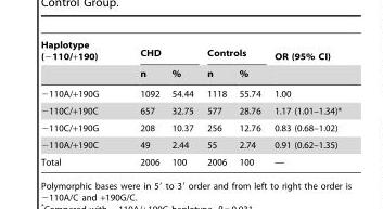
<table><thead><tr><td rowspan="2">Haplotype (−110/+190)</td><td colspan="2">CHD</td><td colspan="2">Controls</td><td rowspan="2">OR (95% CI)</td></tr><tr><td>n</td><td>%</td><td>n</td><td>%</td></tr></thead><tbody><tr><td>−110A/+190G</td><td>1092</td><td>54.44</td><td>1118</td><td>55.74</td><td>1.00</td></tr><tr><td>−110C/+190C</td><td>657</td><td>32.75</td><td>577</td><td>28.76</td><td>1.17 (1.01–1.34)*</td></tr><tr><td>−110C/+190G</td><td>208</td><td>10.37</td><td>256</td><td>12.76</td><td>0.83 (0.68–1.02)</td></tr><tr><td>−110A/+190C</td><td>49</td><td>2.44</td><td>55</td><td>2.74</td><td>0.91 (0.62–1.35)</td></tr><tr><td>Total</td><td>2006</td><td>100</td><td>2006</td><td>100</td><td>—</td></tr></tbody></table>